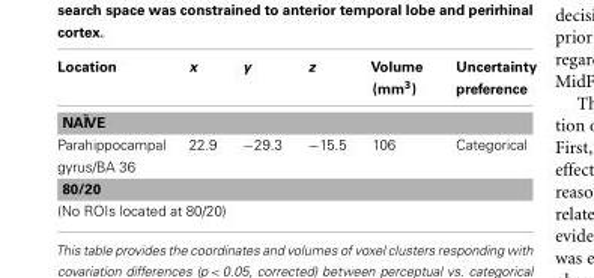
<table><thead><tr><td>Location</td><td>x</td><td>y</td><td>z</td><td>Volume (mm<sup>3</sup>)</td><td>Uncertainty preference</td></tr></thead><tbody><tr><td colspan="6">NA¨lVE</td></tr><tr><td>Parahippocampal gyrus/BA 36</td><td>22.9</td><td>−29.3</td><td>−15.5</td><td>106</td><td>Categorical</td></tr><tr><td colspan="6">80/20</td></tr><tr><td colspan="6">(No ROIs located at 80/20)</td></tr></tbody></table>